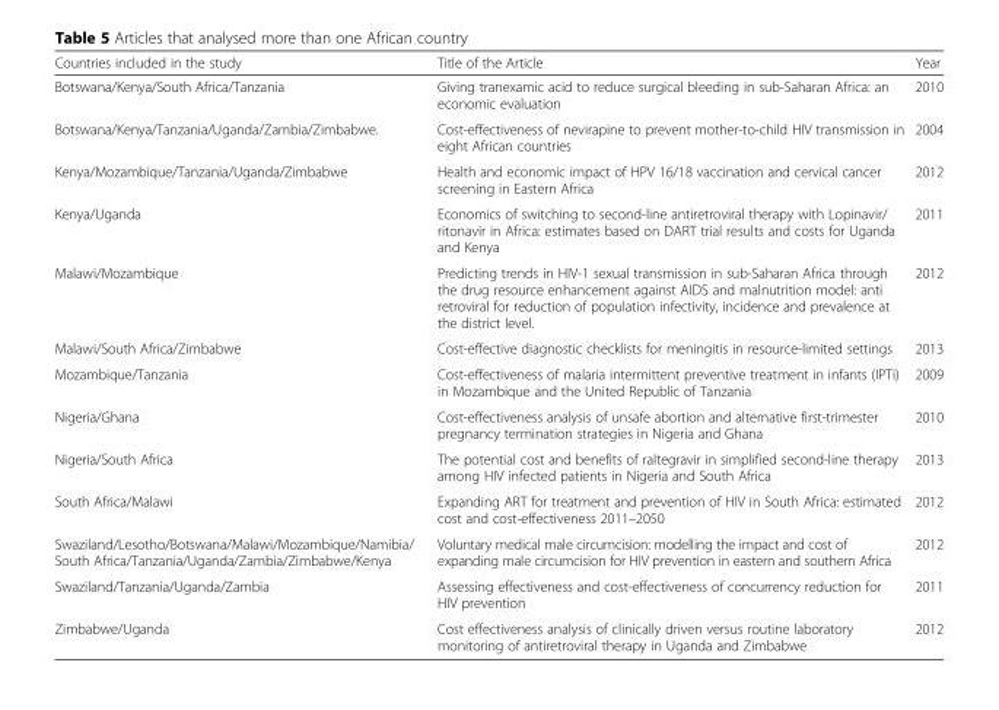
<table><thead><tr><td>Countries included in the study</td><td>Title of the Article</td><td>Year</td></tr></thead><tbody><tr><td>Botswana/Kenya/South Africa/Tanzania</td><td>Giving tranexamic acid to reduce surgical bleeding in sub-Saharan Africa: an economic evaluation</td><td>2010</td></tr><tr><td>Botswana/Kenya/Tanzania/Uganda/Zambia/Zimbabwe.</td><td>Cost-effectiveness of nevirapine to prevent mother-to-child HIV transmission in eight African countries</td><td>2004</td></tr><tr><td>Kenya/Mozambique/Tanzania/Uganda/Zimbabwe</td><td>Health and economic impact of HPV 16/18 vaccination and cervical cancer screening in Eastern Africa</td><td>2012</td></tr><tr><td>Kenya/Uganda</td><td>Economics of switching to second-line antiretroviral therapy with Lopinavir/ ritonavir in Africa: estimates based on DART trial results and costs for Uganda and Kenya</td><td>2011</td></tr><tr><td>Malawi/Mozambique</td><td>Predicting trends in HIV-1 sexual transmission in sub-Saharan Africa through the drug resource enhancement against AIDS and malnutrition model: anti retroviral for reduction of population infectivity, incidence and prevalence at the district level.</td><td>2012</td></tr><tr><td>Malawi/South Africa/Zimbabwe</td><td>Cost-effective diagnostic checklists for meningitis in resource-limited settings</td><td>2013</td></tr><tr><td>Mozambique/Tanzania</td><td>Cost-effectiveness of malaria intermittent preventive treatment in infants (IPTi) in Mozambique and the United Republic of Tanzania</td><td>2009</td></tr><tr><td>Nigeria/Ghana</td><td>Cost-effectiveness analysis of unsafe abortion and alternative first-trimester pregnancy termination strategies in Nigeria and Ghana</td><td>2010</td></tr><tr><td>Nigeria/South Africa</td><td>The potential cost and benefits of raltegravir in simplified second-line therapy among HIV infected patients in Nigeria and South Africa</td><td>2013</td></tr><tr><td>South Africa/Malawi</td><td>Expanding ART for treatment and prevention of HIV in South Africa: estimated cost and cost-effectiveness 2011–2050</td><td>2012</td></tr><tr><td>Swaziland/Lesotho/Botswana/Malawi/Mozambique/Namibia/ South Africa/Tanzania/Uganda/Zambia/Zimbabwe/Kenya</td><td>Voluntary medical male circumcision: modelling the impact and cost of expanding male circumcision for HIV prevention in eastern and southern Africa</td><td>2012</td></tr><tr><td>Swaziland/Tanzania/Uganda/Zambia</td><td>Assessing effectiveness and cost-effectiveness of concurrency reduction for HIV prevention</td><td>2011</td></tr><tr><td>Zimbabwe/Uganda</td><td>Cost effectiveness analysis of clinically driven versus routine laboratory monitoring of antiretroviral therapy in Uganda and Zimbabwe</td><td>2012</td></tr></tbody></table>